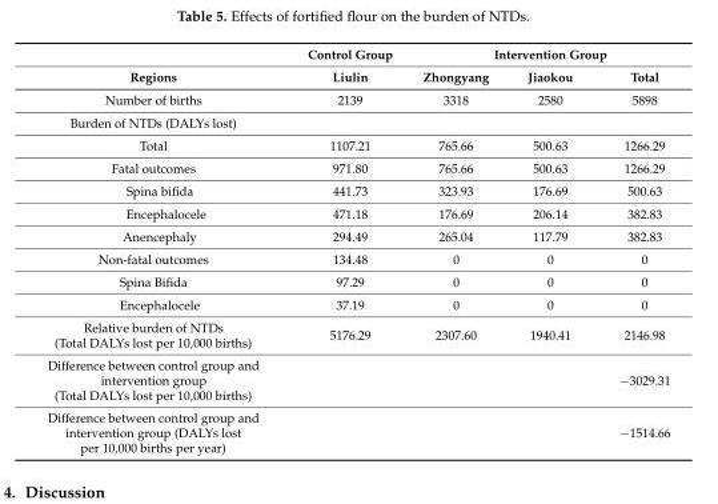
<table><thead><tr><td rowspan="2">Regions</td><td rowspan="2">Control Group Liulin</td><td colspan="3">Intervention Group</td></tr><tr><td>Zhongyang</td><td>Jiaokou</td><td>Total</td></tr></thead><tbody><tr><td>Number of births</td><td>2139</td><td>3318</td><td>2580</td><td>5898</td></tr><tr><td colspan="5">Burden of NTDs (DALYs lost)</td></tr><tr><td>Total</td><td>1107.21</td><td>765.66</td><td>500.63</td><td>1266.29</td></tr><tr><td>Fatal outcomes</td><td>971.80</td><td>765.66</td><td>500.63</td><td>1266.29</td></tr><tr><td>Spina bifida</td><td>441.73</td><td>323.93</td><td>176.69</td><td>500.63</td></tr><tr><td>Encephalocele</td><td>471.18</td><td>176.69</td><td>206.14</td><td>382.83</td></tr><tr><td>Anencephaly</td><td>294.49</td><td>265.04</td><td>117.79</td><td>382.83</td></tr><tr><td>Non-fatal outcomes</td><td>134.48</td><td>0</td><td>0</td><td>0</td></tr><tr><td>Spina Bifida</td><td>97.29</td><td>0</td><td>0</td><td>0</td></tr><tr><td>Encephalocele</td><td>37.19</td><td>0</td><td>0</td><td>0</td></tr><tr><td>Relative burden of NTDs (Total DALYs lost per 10,000 births)</td><td>5176.29</td><td>2307.60</td><td>1940.41</td><td>2146.98</td></tr><tr><td>Difference between control group and intervention group (Total DALYs lost per 10,000 births)</td><td></td><td></td><td></td><td>−3029.31</td></tr><tr><td>Difference between control group and intervention group (DALYs lost per 10,000 births per year)</td><td></td><td></td><td></td><td>−1514.66</td></tr></tbody></table>